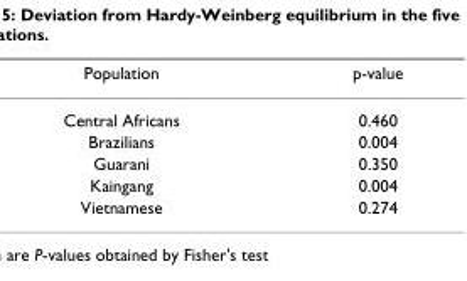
<table><thead><tr><td>Population</td><td>p-value</td></tr></thead><tbody><tr><td>Central Africans</td><td>0.460</td></tr><tr><td>Brazilians</td><td>0.004</td></tr><tr><td>Guarani</td><td>0.350</td></tr><tr><td>Kaingang</td><td>0.004</td></tr><tr><td>Vietnamese</td><td>0.274</td></tr></tbody></table>